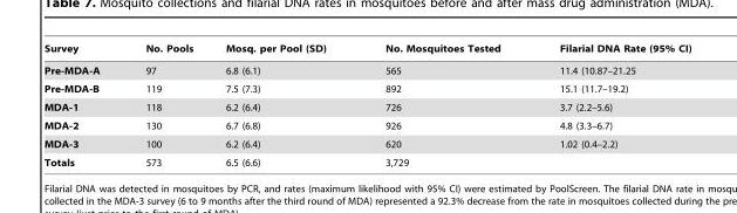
<table><thead><tr><td>Survey</td><td>No. Pools</td><td>Mosq. per Pool (SD)</td><td>No. Mosquitoes Tested</td><td>Filarial DNA Rate (95% CI)</td></tr></thead><tbody><tr><td>Pre-MDA-A</td><td>97</td><td>6.8 (6.1)</td><td>565</td><td>11.4 (10.87–21.25</td></tr><tr><td>Pre-MDA-B</td><td>119</td><td>7.5 (7.3)</td><td>892</td><td>15.1 (11.7–19.2)</td></tr><tr><td>MDA-1</td><td>118</td><td>6.2 (6.4)</td><td>726</td><td>3.7 (2.2–5.6)</td></tr><tr><td>MDA-2</td><td>130</td><td>6.7 (6.8)</td><td>926</td><td>4.8 (3.3–6.7)</td></tr><tr><td>MDA-3</td><td>100</td><td>6.2 (6.4)</td><td>620</td><td>1.02 (0.4–2.2)</td></tr><tr><td>Totals</td><td>573</td><td>6.5 (6.6)</td><td>3,729</td><td></td></tr></tbody></table>